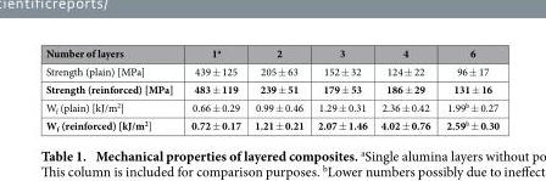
<table><thead><tr><td>Number of layers</td><td>1<sup>a</sup></td><td>2</td><td>3</td><td>4</td><td>6</td></tr></thead><tbody><tr><td>Strength (plain) [MPa]</td><td>439 ± 125</td><td>205 ± 63</td><td>152 ± 32</td><td>124 ± 22</td><td>96 ± 17</td></tr><tr><td>Strength (reinforced) [MPa]</td><td>483 ± 119</td><td>239 ± 51</td><td>179 ± 53</td><td>186 ± 29</td><td>131 ± 16</td></tr><tr><td>W<sub>f</sub> (plain) [kJ/m<sup>2</sup>]</td><td>0.66 ± 0.29</td><td>0.99 ± 0.46</td><td>1.29 ± 0.31</td><td>2.36 ± 0.42</td><td>1.99<sup>b</sup> ± 0.27</td></tr><tr><td>W<sub>f</sub> (reinforced) [kJ/m<sup>2</sup>]</td><td>0.72 ± 0.17</td><td>1.21 ± 0.21</td><td>2.07 ± 1.46</td><td>4.02 ± 0.76</td><td>2.59<sup>b</sup> ± 0.30</td></tr></tbody></table>